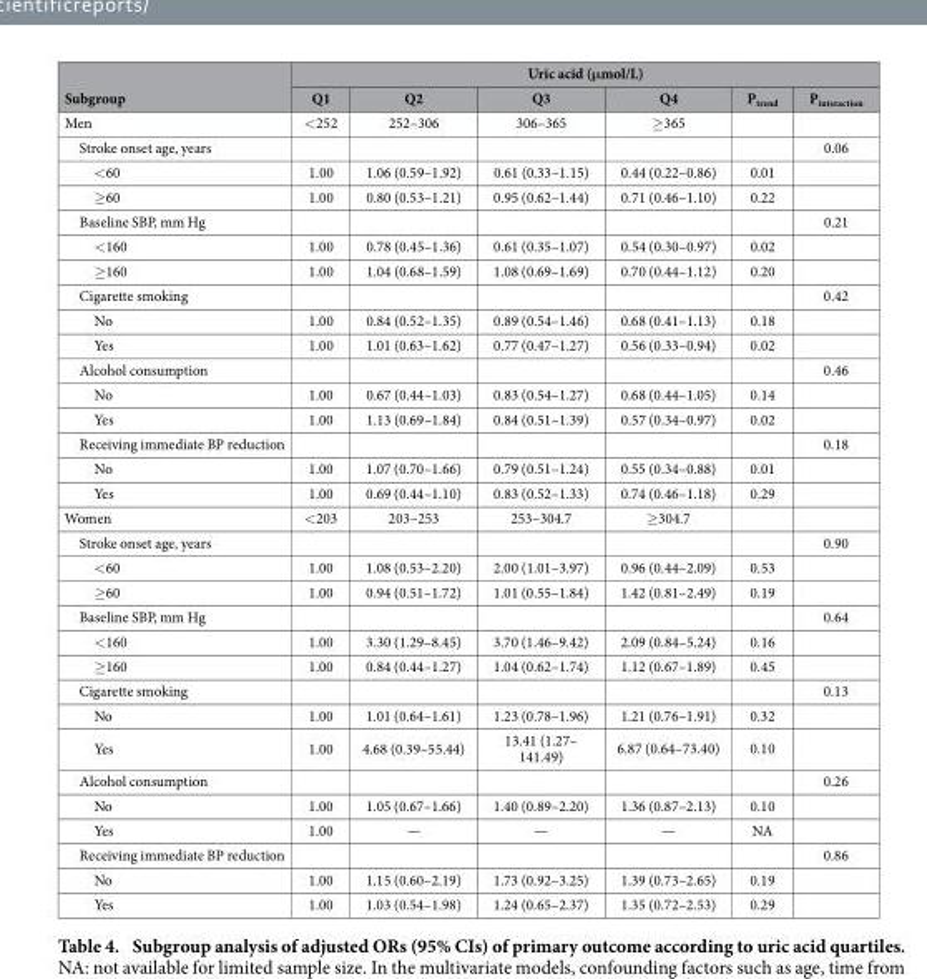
<table><thead><tr><td rowspan="2">Subgroup</td><td colspan="6">Uric acid (μmol/L)</td></tr><tr><td>Q1</td><td>Q2</td><td>Q3</td><td>Q4</td><td>P<sub>trend</sub></td><td>P<sub>interaction</sub></td></tr></thead><tbody><tr><td>Men</td><td>&lt; 252</td><td>252–306</td><td>306–365</td><td>≥ 365</td><td></td><td></td></tr><tr><td>Stroke onset age, years</td><td></td><td></td><td></td><td></td><td></td><td>0.06</td></tr><tr><td>&lt; 60</td><td>1.00</td><td>1.06 (0.59–1.92)</td><td>0.61 (0.33–1.15)</td><td>0.44 (0.22–0.86)</td><td>0.01</td><td></td></tr><tr><td>≥ 60</td><td>1.00</td><td>0.80 (0.53–1.21)</td><td>0.95 (0.62–1.44)</td><td>0.71 (0.46–1.10)</td><td>0.22</td><td></td></tr><tr><td>Baseline SBP, mm Hg</td><td></td><td></td><td></td><td></td><td></td><td>0.21</td></tr><tr><td>&lt; 160</td><td>1.00</td><td>0.78 (0.45–1.36)</td><td>0.61 (0.35–1.07)</td><td>0.54 (0.30–0.97)</td><td>0.02</td><td></td></tr><tr><td>≥ 160</td><td>1.00</td><td>1.04 (0.68–1.59)</td><td>1.08 (0.69–1.69)</td><td>0.70 (0.44–1.12)</td><td>0.20</td><td></td></tr><tr><td>Cigarette smoking</td><td></td><td></td><td></td><td></td><td></td><td>0.42</td></tr><tr><td>No</td><td>1.00</td><td>0.84 (0.52–1.35)</td><td>0.89 (0.54–1.46)</td><td>0.68 (0.41–1.13)</td><td>0.18</td><td></td></tr><tr><td>Yes</td><td>1.00</td><td>1.01 (0.63–1.62)</td><td>0.77 (0.47–1.27)</td><td>0.56 (0.33–0.94)</td><td>0.02</td><td></td></tr><tr><td>Alcohol consumption</td><td></td><td></td><td></td><td></td><td></td><td>0.46</td></tr><tr><td>No</td><td>1.00</td><td>0.67 (0.44–1.03)</td><td>0.83 (0.54–1.27)</td><td>0.68 (0.44–1.05)</td><td>0.14</td><td></td></tr><tr><td>Yes</td><td>1.00</td><td>1.13 (0.69–1.84)</td><td>0.84 (0.51–1.39)</td><td>0.57 (0.34–0.97)</td><td>0.02</td><td></td></tr><tr><td>Receiving immediate BP reduction</td><td></td><td></td><td></td><td></td><td></td><td>0.18</td></tr><tr><td>No</td><td>1.00</td><td>1.07 (0.70–1.66)</td><td>0.79 (0.51–1.24)</td><td>0.55 (0.34–0.88)</td><td>0.01</td><td></td></tr><tr><td>Yes</td><td>1.00</td><td>0.69 (0.44–1.10)</td><td>0.83 (0.52–1.33)</td><td>0.74 (0.46–1.18)</td><td>0.29</td><td></td></tr><tr><td>Women</td><td>&lt; 203</td><td>203–253</td><td>253–304.7</td><td>≥ 304.7</td><td></td><td></td></tr><tr><td>Stroke onset age, years</td><td></td><td></td><td></td><td></td><td></td><td>0.90</td></tr><tr><td>&lt; 60</td><td>1.00</td><td>1.08 (0.53–2.20)</td><td>2.00 (1.01–3.97)</td><td>0.96 (0.44–2.09)</td><td>0.53</td><td></td></tr><tr><td>≥ 60</td><td>1.00</td><td>0.94 (0.51–1.72)</td><td>1.01 (0.55–1.84)</td><td>1.42 (0.81–2.49)</td><td>0.19</td><td></td></tr><tr><td>Baseline SBP, mm Hg</td><td></td><td></td><td></td><td></td><td></td><td>0.64</td></tr><tr><td>&lt; 160</td><td>1.00</td><td>3.30 (1.29–8.45)</td><td>3.70 (1.46–9.42)</td><td>2.09 (0.84–5.24)</td><td>0.16</td><td></td></tr><tr><td>≥ 160</td><td>1.00</td><td>0.84 (0.44–1.27)</td><td>1.04 (0.62–1.74)</td><td>1.12 (0.67–1.89)</td><td>0.45</td><td></td></tr><tr><td>Cigarette smoking</td><td></td><td></td><td></td><td></td><td></td><td>0.13</td></tr><tr><td>No</td><td>1.00</td><td>1.01 (0.64–1.61)</td><td>1.23 (0.78–1.96)</td><td>1.21 (0.76–1.91)</td><td>0.32</td><td></td></tr><tr><td>Yes</td><td>1.00</td><td>4.68 (0.39–55.44)</td><td>13.41 (1.27– 141.49)</td><td>6.87 (0.64–73.40)</td><td>0.10</td><td></td></tr><tr><td>Alcohol consumption</td><td></td><td></td><td></td><td></td><td></td><td>0.26</td></tr><tr><td>No</td><td>1.00</td><td>1.05 (0.67–1.66)</td><td>1.40 (0.89–2.20)</td><td>1.36 (0.87–2.13)</td><td>0.10</td><td></td></tr><tr><td>Yes</td><td>1.00</td><td>—</td><td>—</td><td>—</td><td>NA</td><td></td></tr><tr><td>Receiving immediate BP reduction</td><td></td><td></td><td></td><td></td><td></td><td>0.86</td></tr><tr><td>No</td><td>1.00</td><td>1.15 (0.60–2.19)</td><td>1.73 (0.92–3.25)</td><td>1.39 (0.73–2.65)</td><td>0.19</td><td></td></tr><tr><td>Yes</td><td>1.00</td><td>1.03 (0.54–1.98)</td><td>1.24 (0.65–2.37)</td><td>1.35 (0.72–2.53)</td><td>0.29</td><td></td></tr></tbody></table>